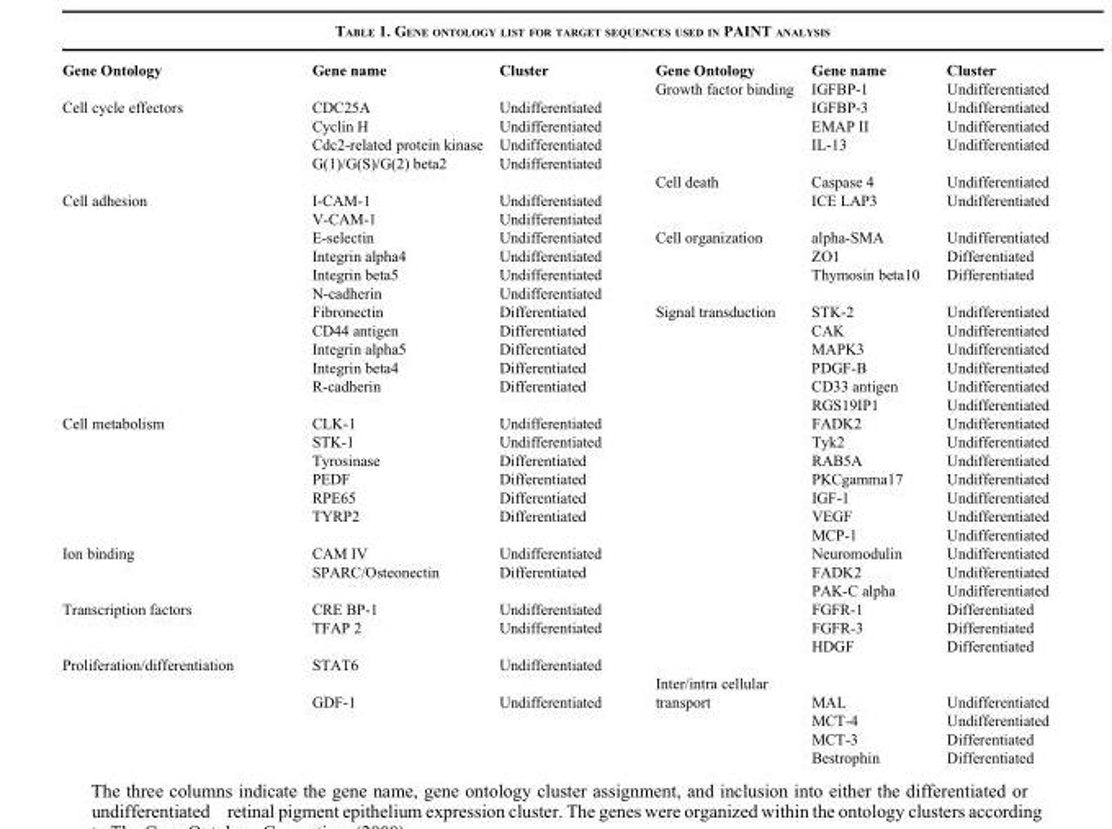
<table><thead><tr><td>Gene Ontology</td><td>Gene name</td><td>Cluster</td><td>Gene Ontology</td><td>Gene name</td><td>Cluster</td></tr></thead><tbody><tr><td></td><td></td><td></td><td>Growth factor binding</td><td>IGFBP-1</td><td>Undifferentiated</td></tr><tr><td rowspan="5">Cell cycle effectors</td><td>CDC25A</td><td>Undifferentiated</td><td></td><td>IGFBP-3</td><td>Undifferentiated</td></tr><tr><td>Cyclin H</td><td>Undifferentiated</td><td></td><td>EMAP II</td><td>Undifferentiated</td></tr><tr><td>Cdc2-related protein kinase</td><td>Undifferentiated</td><td></td><td>IL-13</td><td>Undifferentiated</td></tr><tr><td>G(1)/G(S)/G(2) beta2</td><td>Undifferentiated</td><td></td><td></td><td></td></tr><tr><td></td><td></td><td>Cell death</td><td>Caspase 4</td><td>Undifferentiated</td></tr><tr><td rowspan="12">Cell adhesion</td><td>I-CAM-1</td><td>Undifferentiated</td><td></td><td>ICE LAP3</td><td>Undifferentiated</td></tr><tr><td>V-CAM-1</td><td>Undifferentiated</td><td></td><td></td><td></td></tr><tr><td>E-selectin</td><td>Undifferentiated</td><td>Cell organization</td><td>alpha-SMA</td><td>Undifferentiated</td></tr><tr><td>Integrin alpha4</td><td>Undifferentiated</td><td></td><td>ZO1</td><td>Differentiated</td></tr><tr><td>Integrin beta5</td><td>Undifferentiated</td><td></td><td>Thymosin beta10</td><td>Differentiated</td></tr><tr><td>N-cadherin</td><td>Undifferentiated</td><td></td><td></td><td></td></tr><tr><td>Fibronectin</td><td>Differentiated</td><td>Signal transduction</td><td>STK-2</td><td>Undifferentiated</td></tr><tr><td>CD44 antigen</td><td>Differentiated</td><td></td><td>CAK</td><td>Undifferentiated</td></tr><tr><td>Integrin alpha5</td><td>Differentiated</td><td></td><td>MAPK3</td><td>Undifferentiated</td></tr><tr><td>Integrin beta4</td><td>Differentiated</td><td></td><td>PDGF-B</td><td>Undifferentiated</td></tr><tr><td>R-cadherin</td><td>Differentiated</td><td></td><td>CD33 antigen</td><td>Undifferentiated</td></tr><tr><td></td><td></td><td></td><td>RGS19IP1</td><td>Undifferentiated</td></tr><tr><td rowspan="7">Cell metabolism</td><td>CLK-1</td><td>Undifferentiated</td><td></td><td>FADK2</td><td>Undifferentiated</td></tr><tr><td>STK-1</td><td>Undifferentiated</td><td></td><td>Tyk2</td><td>Undifferentiated</td></tr><tr><td>Tyrosinase</td><td>Differentiated</td><td></td><td>RAB5A</td><td>Undifferentiated</td></tr><tr><td>PEDF</td><td>Differentiated</td><td></td><td>PKCgamma17</td><td>Undifferentiated</td></tr><tr><td>RPE65</td><td>Differentiated</td><td></td><td>IGF-1</td><td>Undifferentiated</td></tr><tr><td>TYRP2</td><td>Differentiated</td><td></td><td>VEGF</td><td>Undifferentiated</td></tr><tr><td></td><td></td><td></td><td>MCP-1</td><td>Undifferentiated</td></tr><tr><td rowspan="3">Ion binding</td><td>CAM IV</td><td>Undifferentiated</td><td></td><td>Neuromodulin</td><td>Undifferentiated</td></tr><tr><td>SPARC/Osteonectin</td><td>Differentiated</td><td></td><td>FADK2</td><td>Undifferentiated</td></tr><tr><td></td><td></td><td></td><td>PAK-C alpha</td><td>Undifferentiated</td></tr><tr><td rowspan="3">Transcription factors</td><td>CRE BP-1</td><td>Undifferentiated</td><td></td><td>FGFR-1</td><td>Differentiated</td></tr><tr><td>TFAP 2</td><td>Undifferentiated</td><td></td><td>FGFR-3</td><td>Differentiated</td></tr><tr><td></td><td></td><td></td><td>HDGF</td><td>Differentiated</td></tr><tr><td rowspan="5">Proliferation/differentiation</td><td>STAT6</td><td>Undifferentiated</td><td></td><td></td><td></td></tr><tr><td>GDF-1</td><td>Undifferentiated</td><td>Inter/intra cellular transport</td><td>MAL</td><td>Undifferentiated</td></tr><tr><td></td><td></td><td></td><td>MCT-4</td><td>Undifferentiated</td></tr><tr><td></td><td></td><td></td><td>MCT-3</td><td>Differentiated</td></tr><tr><td></td><td></td><td></td><td>Bestrophin</td><td>Differentiated</td></tr></tbody></table>